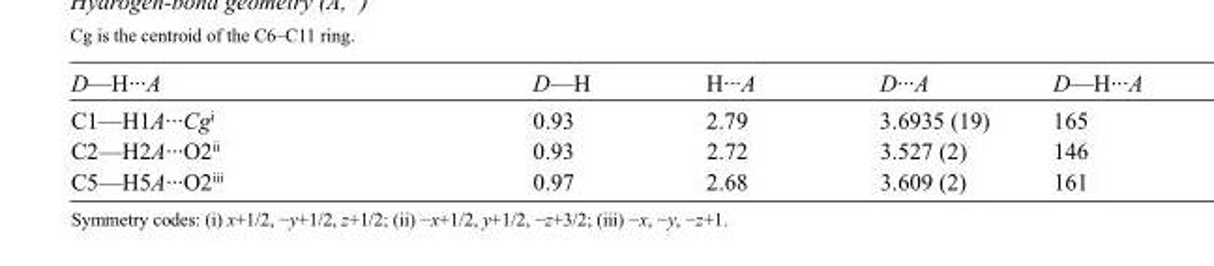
<table><tbody><tr><td>D—H···A</td><td>D—H</td><td>H···A</td><td>D···A</td><td>D—H···A</td></tr><tr><td>C1—H1A···Cg<sup>i</sup></td><td>0.93</td><td>2.79</td><td>3.6935 (19)</td><td>165</td></tr><tr><td>C2—H2A···O2<sup>ii</sup></td><td>0.93</td><td>2.72</td><td>3.527 (2)</td><td>146</td></tr><tr><td>C5—H5A···O2<sup>iii</sup></td><td>0.97</td><td>2.68</td><td>3.609 (2)</td><td>161</td></tr></tbody></table>